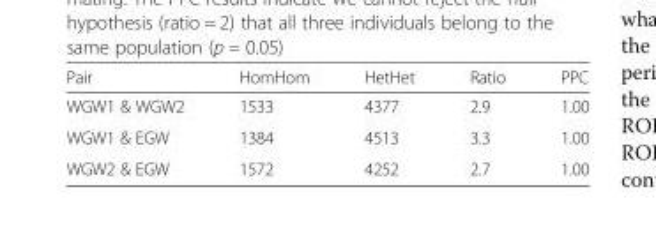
<table><thead><tr><td>Pair</td><td>HomHom</td><td>HetHet</td><td>Ratio</td><td>PPC</td></tr></thead><tbody><tr><td>WGW1 &amp; WGW2</td><td>1533</td><td>4377</td><td>2.9</td><td>1.00</td></tr><tr><td>WGW1 &amp; EGW</td><td>1384</td><td>4513</td><td>3.3</td><td>1.00</td></tr><tr><td>WGW2 &amp; EGW</td><td>1572</td><td>4252</td><td>2.7</td><td>1.00</td></tr></tbody></table>